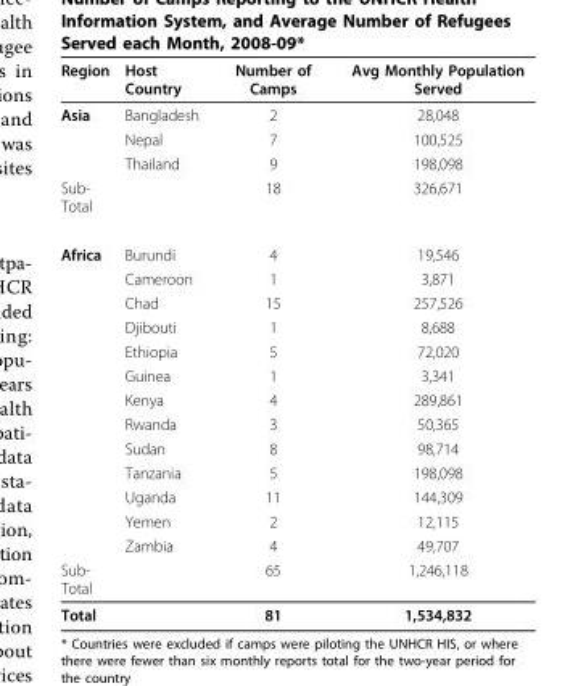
<table><thead><tr><td>Region</td><td>Host Country</td><td>Number of Camps</td><td>Avg Monthly Population Served</td></tr></thead><tbody><tr><td rowspan="3">Asia</td><td>Bangladesh</td><td>2</td><td>28,048</td></tr><tr><td>Nepal</td><td>7</td><td>100,525</td></tr><tr><td>Thailand</td><td>9</td><td>198,098</td></tr><tr><td>Sub- Total</td><td></td><td>18</td><td>326,671</td></tr><tr><td rowspan="13">Africa</td><td>Burundi</td><td>4</td><td>19,546</td></tr><tr><td>Cameroon</td><td>1</td><td>3,871</td></tr><tr><td>Chad</td><td>15</td><td>257,526</td></tr><tr><td>Djibouti</td><td>1</td><td>8,688</td></tr><tr><td>Ethiopia</td><td>5</td><td>72,020</td></tr><tr><td>Guinea</td><td>1</td><td>3,341</td></tr><tr><td>Kenya</td><td>4</td><td>289,861</td></tr><tr><td>Rwanda</td><td>3</td><td>50,365</td></tr><tr><td>Sudan</td><td>8</td><td>98,714</td></tr><tr><td>Tanzania</td><td>5</td><td>198,098</td></tr><tr><td>Uganda</td><td>11</td><td>144,309</td></tr><tr><td>Yemen</td><td>2</td><td>12,115</td></tr><tr><td>Zambia</td><td>4</td><td>49,707</td></tr><tr><td>Sub- Total</td><td></td><td>65</td><td>1,246,118</td></tr><tr><td>Total</td><td></td><td>81</td><td>1,534,832</td></tr></tbody></table>